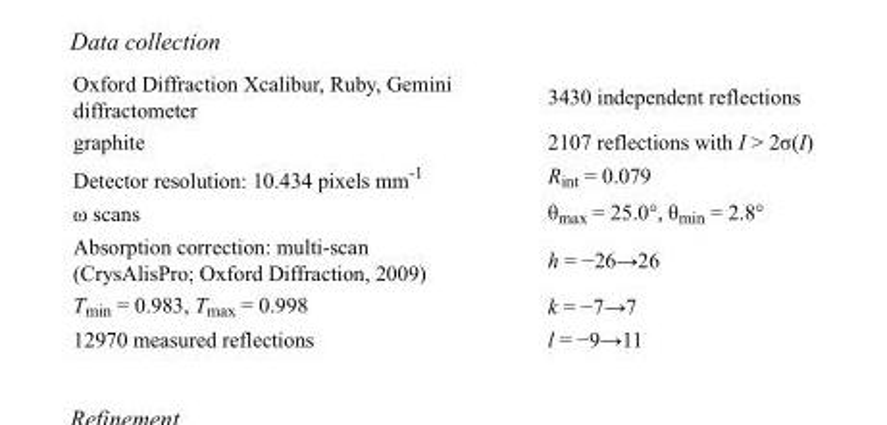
<table><tbody><tr><td>Oxford Diffraction Xcalibur, Ruby, Gemini diffractometer</td><td>3430 independent reflections</td></tr><tr><td>graphite</td><td>2107 reflections with I &gt; 2σ(I)</td></tr><tr><td>Detector resolution: 10.434 pixels mm<sup>-1</sup></td><td>R<sub>int</sub> = 0.079</td></tr><tr><td>ω scans</td><td>θ<sub>max</sub> = 25.0°, θ<sub>min</sub> = 2.8°</td></tr><tr><td>Absorption correction: multi-scan (CrysAlisPro; Oxford Diffraction, 2009)</td><td>h = −26→26</td></tr><tr><td>T<sub>min</sub> = 0.983, T<sub>max</sub> = 0.998</td><td>k = −7→7</td></tr><tr><td>12970 measured reflections</td><td>l = −9→11</td></tr></tbody></table>